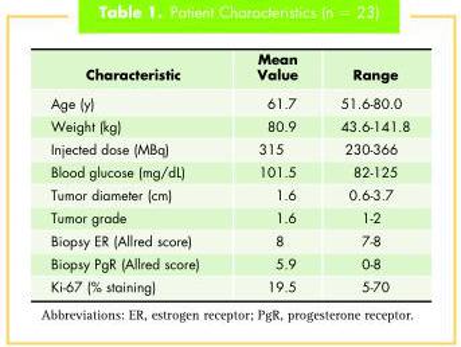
<table><thead><tr><td>Characteristic</td><td>Mean Value</td><td>Range</td></tr></thead><tbody><tr><td>Age (y)</td><td>61.7</td><td>51.6-80.0</td></tr><tr><td>Weight (kg)</td><td>80.9</td><td>43.6-141.8</td></tr><tr><td>Injected dose (MBq)</td><td>315</td><td>230-366</td></tr><tr><td>Blood glucose (mg/dL)</td><td>101.5</td><td>82-125</td></tr><tr><td>Tumor diameter (cm)</td><td>1.6</td><td>0.6-3.7</td></tr><tr><td>Tumor grade</td><td>1.6</td><td>1-2</td></tr><tr><td>Biopsy ER (Allred score)</td><td>8</td><td>7-8</td></tr><tr><td>Biopsy PgR (Allred score)</td><td>5.9</td><td>0-8</td></tr><tr><td>Ki-67 (% staining)</td><td>19.5</td><td>5-70</td></tr></tbody></table>